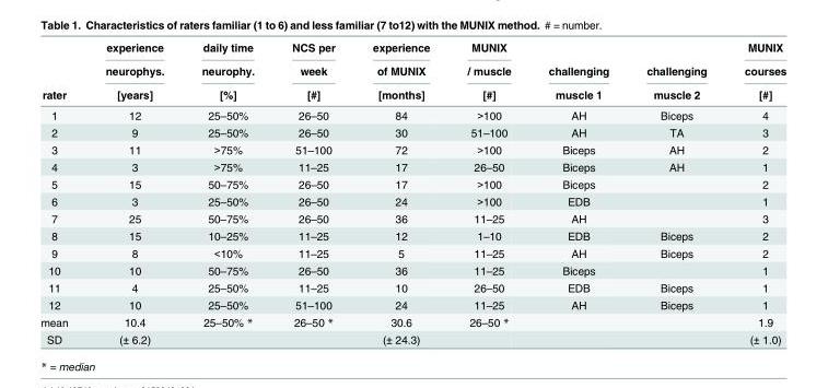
<table><thead><tr><td rowspan="3">rater</td><td rowspan="3">experience neurophys. [years]</td><td rowspan="3">daily time neurophy. [%]</td><td rowspan="3">NCS per week [#]</td><td rowspan="3">experience of MUNIX [months]</td><td rowspan="3">MUNIX / muscle [#]</td><td rowspan="3">challenging muscle 1</td><td rowspan="3">challenging muscle 2</td><td rowspan="3">MUNIX courses [#]</td></tr><tr></tr><tr></tr></thead><tbody><tr><td>1</td><td>12</td><td>25–50%</td><td>26–50</td><td>84</td><td>&gt;100</td><td>AH</td><td>Biceps</td><td>4</td></tr><tr><td>2</td><td>9</td><td>25–50%</td><td>26–50</td><td>30</td><td>51–100</td><td>AH</td><td>TA</td><td>3</td></tr><tr><td>3</td><td>11</td><td>&gt;75%</td><td>51–100</td><td>72</td><td>&gt;100</td><td>Biceps</td><td>AH</td><td>2</td></tr><tr><td>4</td><td>3</td><td>&gt;75%</td><td>11–25</td><td>17</td><td>26–50</td><td>Biceps</td><td>AH</td><td>1</td></tr><tr><td>5</td><td>15</td><td>50–75%</td><td>26–50</td><td>17</td><td>&gt;100</td><td>Biceps</td><td></td><td>2</td></tr><tr><td>6</td><td>3</td><td>25–50%</td><td>26–50</td><td>24</td><td>&gt;100</td><td>EDB</td><td></td><td>1</td></tr><tr><td>7</td><td>25</td><td>50–75%</td><td>26–50</td><td>36</td><td>11–25</td><td>AH</td><td></td><td>3</td></tr><tr><td>8</td><td>15</td><td>10–25%</td><td>11–25</td><td>12</td><td>1–10</td><td>EDB</td><td>Biceps</td><td>2</td></tr><tr><td>9</td><td>8</td><td>&lt;10%</td><td>11–25</td><td>5</td><td>11–25</td><td>AH</td><td>Biceps</td><td>2</td></tr><tr><td>10</td><td>10</td><td>50–75%</td><td>26–50</td><td>36</td><td>11–25</td><td>Biceps</td><td></td><td>1</td></tr><tr><td>11</td><td>4</td><td>25–50%</td><td>11–25</td><td>10</td><td>26–50</td><td>EDB</td><td>Biceps</td><td>1</td></tr><tr><td>12</td><td>10</td><td>25–50%</td><td>51–100</td><td>24</td><td>11–25</td><td>AH</td><td>Biceps</td><td>1</td></tr><tr><td>mean</td><td>10.4</td><td>25–50% *</td><td>26–50 *</td><td>30.6</td><td>26–50 *</td><td></td><td></td><td>1.9</td></tr><tr><td>SD</td><td>(± 6.2)</td><td></td><td></td><td>(± 24.3)</td><td></td><td></td><td></td><td>(± 1.0)</td></tr></tbody></table>